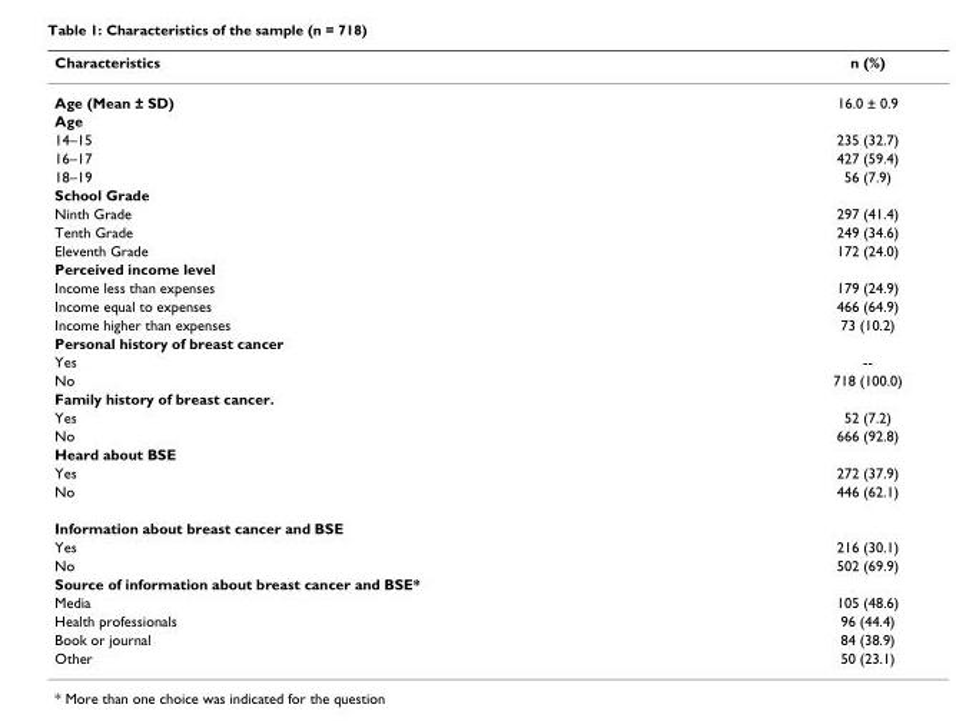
<table><thead><tr><td>Characteristics</td><td>n (%)</td></tr></thead><tbody><tr><td>Age (Mean ± SD)</td><td>16.0 ± 0.9</td></tr><tr><td colspan="2">Age</td></tr><tr><td>14–15</td><td>235 (32.7)</td></tr><tr><td>16–17</td><td>427 (59.4)</td></tr><tr><td>18–19</td><td>56 (7.9)</td></tr><tr><td colspan="2">School Grade</td></tr><tr><td>Ninth Grade</td><td>297 (41.4)</td></tr><tr><td>Tenth Grade</td><td>249 (34.6)</td></tr><tr><td>Eleventh Grade</td><td>172 (24.0)</td></tr><tr><td colspan="2">Perceived income level</td></tr><tr><td>Income less than expenses</td><td>179 (24.9)</td></tr><tr><td>Income equal to expenses</td><td>466 (64.9)</td></tr><tr><td>Income higher than expenses</td><td>73 (10.2)</td></tr><tr><td colspan="2">Personal history of breast cancer</td></tr><tr><td>Yes</td><td>--</td></tr><tr><td>No</td><td>718 (100.0)</td></tr><tr><td colspan="2">Family history of breast cancer.</td></tr><tr><td>Yes</td><td>52 (7.2)</td></tr><tr><td>No</td><td>666 (92.8)</td></tr><tr><td colspan="2">Heard about BSE</td></tr><tr><td>Yes</td><td>272 (37.9)</td></tr><tr><td>No</td><td>446 (62.1)</td></tr><tr><td colspan="2">Information about breast cancer and BSE</td></tr><tr><td>Yes</td><td>216 (30.1)</td></tr><tr><td>No</td><td>502 (69.9)</td></tr><tr><td colspan="2">Source of information about breast cancer and BSE*</td></tr><tr><td>Media</td><td>105 (48.6)</td></tr><tr><td>Health professionals</td><td>96 (44.4)</td></tr><tr><td>Book or journal</td><td>84 (38.9)</td></tr><tr><td>Other</td><td>50 (23.1)</td></tr></tbody></table>